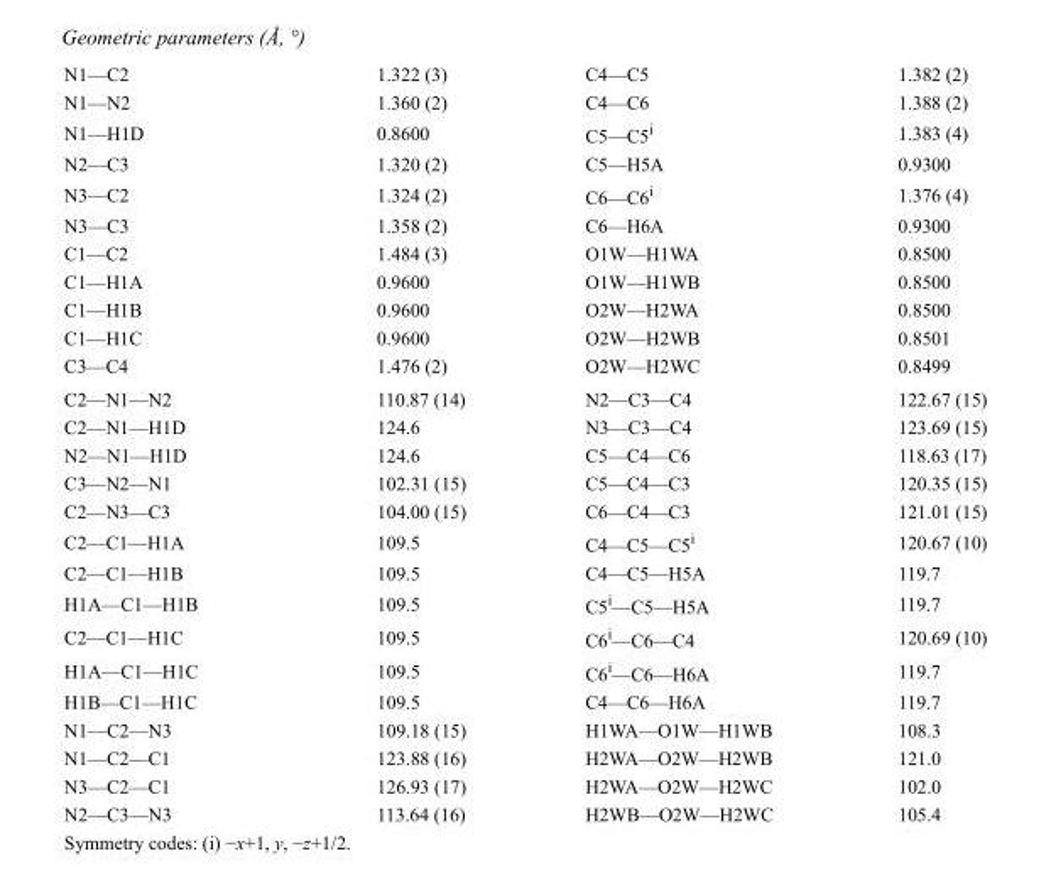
<table><tbody><tr><td>N1—C2</td><td>1.322 (3)</td><td>C4—C5</td><td>1.382 (2)</td></tr><tr><td>N1—N2</td><td>1.360 (2)</td><td>C4—C6</td><td>1.388 (2)</td></tr><tr><td>N1—H1D</td><td>0.8600</td><td>C5—C5<sup>i</sup></td><td>1.383 (4)</td></tr><tr><td>N2—C3</td><td>1.320 (2)</td><td>C5—H5A</td><td>0.9300</td></tr><tr><td>N3—C2</td><td>1.324 (2)</td><td>C6—C6<sup>i</sup></td><td>1.376 (4)</td></tr><tr><td>N3—C3</td><td>1.358 (2)</td><td>C6—H6A</td><td>0.9300</td></tr><tr><td>C1—C2</td><td>1.484 (3)</td><td>O1W—H1WA</td><td>0.8500</td></tr><tr><td>C1—H1A</td><td>0.9600</td><td>O1W—H1WB</td><td>0.8500</td></tr><tr><td>C1—H1B</td><td>0.9600</td><td>O2W—H2WA</td><td>0.8500</td></tr><tr><td>C1—H1C</td><td>0.9600</td><td>O2W—H2WB</td><td>0.8501</td></tr><tr><td>C3—C4</td><td>1.476 (2)</td><td>O2W—H2WC</td><td>0.8499</td></tr><tr><td>C2—N1—N2</td><td>110.87 (14)</td><td>N2—C3—C4</td><td>122.67 (15)</td></tr><tr><td>C2—N1—H1D</td><td>124.6</td><td>N3—C3—C4</td><td>123.69 (15)</td></tr><tr><td>N2—N1—H1D</td><td>124.6</td><td>C5—C4—C6</td><td>118.63 (17)</td></tr><tr><td>C3—N2—N1</td><td>102.31 (15)</td><td>C5—C4—C3</td><td>120.35 (15)</td></tr><tr><td>C2—N3—C3</td><td>104.00 (15)</td><td>C6—C4—C3</td><td>121.01 (15)</td></tr><tr><td>C2—C1—H1A</td><td>109.5</td><td>C4—C5—C5<sup>i</sup></td><td>120.67 (10)</td></tr><tr><td>C2—C1—H1B</td><td>109.5</td><td>C4—C5—H5A</td><td>119.7</td></tr><tr><td>H1A—C1—H1B</td><td>109.5</td><td>C5<sup>i</sup>—C5—H5A</td><td>119.7</td></tr><tr><td>C2—C1—H1C</td><td>109.5</td><td>C6<sup>i</sup>—C6—C4</td><td>120.69 (10)</td></tr><tr><td>H1A—C1—H1C</td><td>109.5</td><td>C6<sup>i</sup>—C6—H6A</td><td>119.7</td></tr><tr><td>H1B—C1—H1C</td><td>109.5</td><td>C4—C6—H6A</td><td>119.7</td></tr><tr><td>N1—C2—N3</td><td>109.18 (15)</td><td>H1WA—O1W—H1WB</td><td>108.3</td></tr><tr><td>N1—C2—C1</td><td>123.88 (16)</td><td>H2WA—O2W—H2WB</td><td>121.0</td></tr><tr><td>N3—C2—C1</td><td>126.93 (17)</td><td>H2WA—O2W—H2WC</td><td>102.0</td></tr><tr><td>N2—C3—N3</td><td>113.64 (16)</td><td>H2WB—O2W—H2WC</td><td>105.4</td></tr></tbody></table>